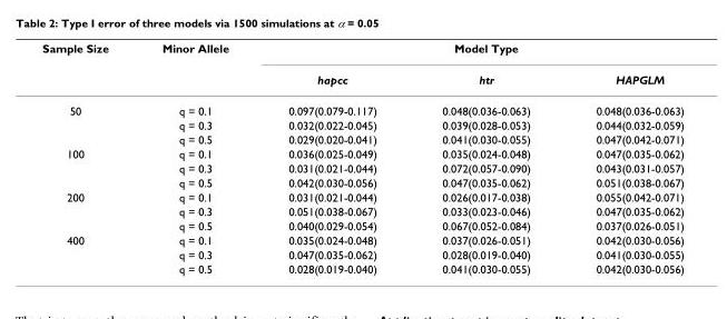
<table><thead><tr><td rowspan="2">Sample Size</td><td rowspan="2">Minor Allele</td><td colspan="3">Model Type</td></tr><tr><td>hapcc</td><td>htr</td><td>HAPGLM</td></tr></thead><tbody><tr><td rowspan="3">50</td><td>q = 0.1</td><td>0.097(0.079-0.117)</td><td>0.048(0.036-0.063)</td><td>0.048(0.036-0.063)</td></tr><tr><td>q = 0.3</td><td>0.032(0.022-0.045)</td><td>0.039(0.028-0.053)</td><td>0.044(0.032-0.059)</td></tr><tr><td>q = 0.5</td><td>0.029(0.020-0.041)</td><td>0.041(0.030-0.055)</td><td>0.047(0.042-0.071)</td></tr><tr><td rowspan="3">100</td><td>q = 0.1</td><td>0.036(0.025-0.049)</td><td>0.035(0.024-0.048)</td><td>0.047(0.035-0.062)</td></tr><tr><td>q = 0.3</td><td>0.031(0.021-0.044)</td><td>0.072(0.057-0.090)</td><td>0.043(0.031-0.057)</td></tr><tr><td>q = 0.5</td><td>0.042(0.030-0.056)</td><td>0.047(0.035-0.062)</td><td>0.051(0.038-0.067)</td></tr><tr><td rowspan="3">200</td><td>q = 0.1</td><td>0.031(0.021-0.044)</td><td>0.026(0.017-0.038)</td><td>0.055(0.042-0.071)</td></tr><tr><td>q = 0.3</td><td>0.051(0.038-0.067)</td><td>0.033(0.023-0.046)</td><td>0.047(0.035-0.062)</td></tr><tr><td>q = 0.5</td><td>0.040(0.029-0.054)</td><td>0.067(0.052-0.084)</td><td>0.037(0.026-0.051)</td></tr><tr><td rowspan="3">400</td><td>q = 0.1</td><td>0.035(0.024-0.048)</td><td>0.037(0.026-0.051)</td><td>0.042(0.030-0.056)</td></tr><tr><td>q = 0.3</td><td>0.047(0.035-0.062)</td><td>0.028(0.019-0.040)</td><td>0.041(0.030-0.055)</td></tr><tr><td>q = 0.5</td><td>0.028(0.019-0.040)</td><td>0.041(0.030-0.055)</td><td>0.042(0.030-0.056)</td></tr></tbody></table>